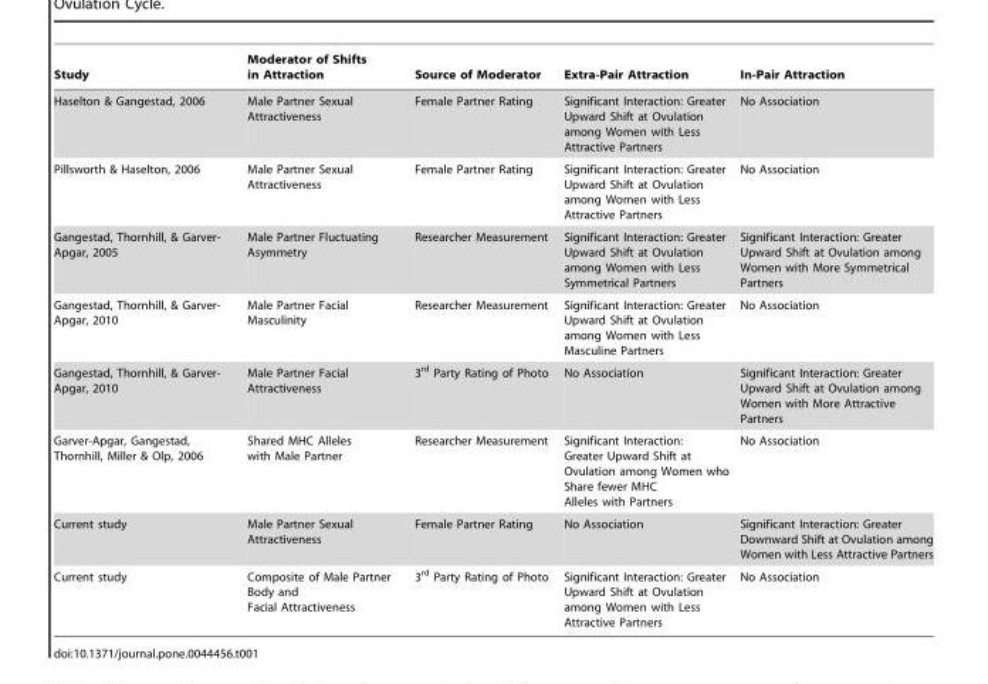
<table><thead><tr><td>Study</td><td>Moderator of Shifts in Attraction</td><td>Source of Moderator</td><td>Extra-Pair Attraction</td><td>In-Pair Attraction</td></tr></thead><tbody><tr><td>Haselton &amp; Gangestad, 2006</td><td>Male Partner Sexual Attractiveness</td><td>Female Partner Rating</td><td>Significant Interaction: Greater Upward Shift at Ovulation among Women with Less Attractive Partners</td><td>No Association</td></tr><tr><td>Pillsworth &amp; Haselton, 2006</td><td>Male Partner Sexual Attractiveness</td><td>Female Partner Rating</td><td>Significant Interaction: Greater Upward Shift at Ovulation among Women with Less Attractive Partners</td><td>No Association</td></tr><tr><td>Gangestad, Thornhill, &amp; Garver- Apgar, 2005</td><td>Male Partner Fluctuating Asymmetry</td><td>Researcher Measurement</td><td>Significant Interaction: Greater Upward Shift at Ovulation among Women with Less Symmetrical Partners</td><td>Significant Interaction: Greater Upward Shift at Ovulation among Women with More Symmetrical Partners</td></tr><tr><td>Gangestad, Thornhill, &amp; Garver- Apgar, 2010</td><td>Male Partner Facial Masculinity</td><td>Researcher Measurement</td><td>Significant Interaction: Greater Upward Shift at Ovulation among Women with Less Masculine Partners</td><td>No Association</td></tr><tr><td>Gangestad, Thornhill, &amp; Garver- Apgar, 2010</td><td>Male Partner Facial Attractiveness</td><td>3<sup>rd</sup> Party Rating of Photo</td><td>No Association</td><td>Significant Interaction: Greater Upward Shift at Ovulation among Women with More Attractive Partners</td></tr><tr><td>Garver-Apgar, Gangestad, Thornhill, Miller &amp; Olp, 2006</td><td>Shared MHC Alleles with Male Partner</td><td>Researcher Measurement</td><td>Significant Interaction: Greater Upward Shift at Ovulation among Women who Share fewer MHC Alleles with Partners</td><td>No Association</td></tr><tr><td>Current study</td><td>Male Partner Sexual Attractiveness</td><td>Female Partner Rating</td><td>No Association</td><td>Significant Interaction: Greater Downward Shift at Ovulation among Women with Less Attractive Partners</td></tr><tr><td>Current study</td><td>Composite of Male Partner Body and Facial Attractiveness</td><td>3<sup>rd</sup> Party Rating of Photo</td><td>Significant Interaction: Greater Upward Shift at Ovulation among Women with Less Attractive Partners</td><td>No Association</td></tr></tbody></table>